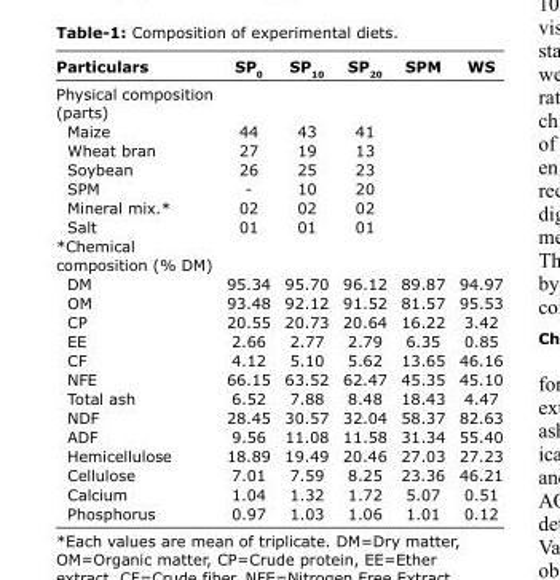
<table><thead><tr><td>Particulars</td><td>SP<sub>0</sub></td><td>SP<sub>10</sub></td><td>SP<sub>20</sub></td><td>SPM</td><td>WS</td></tr></thead><tbody><tr><td colspan="6">Physical composition (parts)</td></tr><tr><td>Maize</td><td>44</td><td>43</td><td>41</td><td></td><td></td></tr><tr><td>Wheat bran</td><td>27</td><td>19</td><td>13</td><td></td><td></td></tr><tr><td>Soybean</td><td>26</td><td>25</td><td>23</td><td></td><td></td></tr><tr><td>SPM</td><td>-</td><td>10</td><td>20</td><td></td><td></td></tr><tr><td>Mineral mix.*</td><td>02</td><td>02</td><td>02</td><td></td><td></td></tr><tr><td>Salt</td><td>01</td><td>01</td><td>01</td><td></td><td></td></tr><tr><td colspan="6">*Chemical composition (% DM)</td></tr><tr><td>DM</td><td>95.34</td><td>95.70</td><td>96.12</td><td>89.87</td><td>94.97</td></tr><tr><td>OM</td><td>93.48</td><td>92.12</td><td>91.52</td><td>81.57</td><td>95.53</td></tr><tr><td>CP</td><td>20.55</td><td>20.73</td><td>20.64</td><td>16.22</td><td>3.42</td></tr><tr><td>EE</td><td>2.66</td><td>2.77</td><td>2.79</td><td>6.35</td><td>0.85</td></tr><tr><td>CF</td><td>4.12</td><td>5.10</td><td>5.62</td><td>13.65</td><td>46.16</td></tr><tr><td>NFE</td><td>66.15</td><td>63.52</td><td>62.47</td><td>45.35</td><td>45.10</td></tr><tr><td>Total ash</td><td>6.52</td><td>7.88</td><td>8.48</td><td>18.43</td><td>4.47</td></tr><tr><td>NDF</td><td>28.45</td><td>30.57</td><td>32.04</td><td>58.37</td><td>82.63</td></tr><tr><td>ADF</td><td>9.56</td><td>11.08</td><td>11.58</td><td>31.34</td><td>55.40</td></tr><tr><td>Hemicellulose</td><td>18.89</td><td>19.49</td><td>20.46</td><td>27.03</td><td>27.23</td></tr><tr><td>Cellulose</td><td>7.01</td><td>7.59</td><td>8.25</td><td>23.36</td><td>46.21</td></tr><tr><td>Calcium</td><td>1.04</td><td>1.32</td><td>1.72</td><td>5.07</td><td>0.51</td></tr><tr><td>Phosphorus</td><td>0.97</td><td>1.03</td><td>1.06</td><td>1.01</td><td>0.12</td></tr></tbody></table>